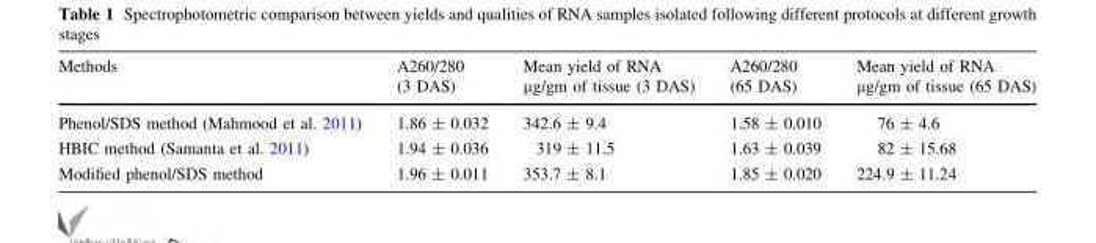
<table><thead><tr><td>Methods</td><td>A260/280 (3 DAS)</td><td>Mean yield of RNA μg/gm of tissue (3 DAS)</td><td>A260/280 (65 DAS)</td><td>Mean yield of RNA μg/gm of tissue (65 DAS)</td></tr></thead><tbody><tr><td>Phenol/SDS method (Mahmood et al. 2011)</td><td>1.86 ± 0.032</td><td>342.6 ± 9.4</td><td>1.58 ± 0.010</td><td>76 ± 4.6</td></tr><tr><td>HBIC method (Samanta et al. 2011)</td><td>1.94 ± 0.036</td><td>319 ± 11.5</td><td>1.63 ± 0.039</td><td>82 ± 15.68</td></tr><tr><td>Modified phenol/SDS method</td><td>1.96 ± 0.011</td><td>353.7 ± 8.1</td><td>1.85 ± 0.020</td><td>224.9 ± 11.24</td></tr></tbody></table>